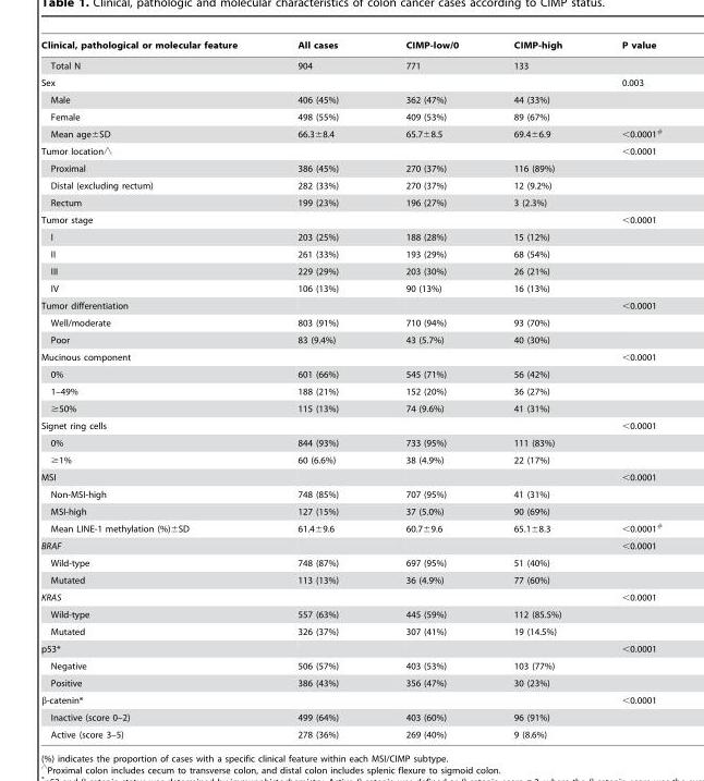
<table><thead><tr><td>Clinical, pathological or molecular feature</td><td>All cases</td><td>CIMP-low/0</td><td>CIMP-high</td><td>P value</td></tr></thead><tbody><tr><td>Total N</td><td>904</td><td>771</td><td>133</td><td></td></tr><tr><td>Sex</td><td></td><td></td><td></td><td>0.003</td></tr><tr><td>Male</td><td>406 (45%)</td><td>362 (47%)</td><td>44 (33%)</td><td></td></tr><tr><td>Female</td><td>498 (55%)</td><td>409 (53%)</td><td>89 (67%)</td><td></td></tr><tr><td>Mean age±SD</td><td>66.3±8.4</td><td>65.7±8.5</td><td>69.4±6.9</td><td>&lt;0.0001#</td></tr><tr><td>Tumor location‘</td><td></td><td></td><td></td><td>&lt;0.0001</td></tr><tr><td>Proximal</td><td>386 (45%)</td><td>270 (37%)</td><td>116 (89%)</td><td></td></tr><tr><td>Distal (excluding rectum)</td><td>282 (33%)</td><td>270 (37%)</td><td>12 (9.2%)</td><td></td></tr><tr><td>Rectum</td><td>199 (23%)</td><td>196 (27%)</td><td>3 (2.3%)</td><td></td></tr><tr><td>Tumor stage</td><td></td><td></td><td></td><td>&lt;0.0001</td></tr><tr><td>I</td><td>203 (25%)</td><td>188 (28%)</td><td>15 (12%)</td><td></td></tr><tr><td>II</td><td>261 (33%)</td><td>193 (29%)</td><td>68 (54%)</td><td></td></tr><tr><td>III</td><td>229 (29%)</td><td>203 (30%)</td><td>26 (21%)</td><td></td></tr><tr><td>IV</td><td>106 (13%)</td><td>90 (13%)</td><td>16 (13%)</td><td></td></tr><tr><td>Tumor differentiation</td><td></td><td></td><td></td><td>&lt;0.0001</td></tr><tr><td>Well/moderate</td><td>803 (91%)</td><td>710 (94%)</td><td>93 (70%)</td><td></td></tr><tr><td>Poor</td><td>83 (9.4%)</td><td>43 (5.7%)</td><td>40 (30%)</td><td></td></tr><tr><td>Mucinous component</td><td></td><td></td><td></td><td>&lt;0.0001</td></tr><tr><td>0%</td><td>601 (66%)</td><td>545 (71%)</td><td>56 (42%)</td><td></td></tr><tr><td>1–49%</td><td>188 (21%)</td><td>152 (20%)</td><td>36 (27%)</td><td></td></tr><tr><td>≥50%</td><td>115 (13%)</td><td>74 (9.6%)</td><td>41 (31%)</td><td></td></tr><tr><td>Signet ring cells</td><td></td><td></td><td></td><td>&lt;0.0001</td></tr><tr><td>0%</td><td>844 (93%)</td><td>733 (95%)</td><td>111 (83%)</td><td></td></tr><tr><td>≥1%</td><td>60 (6.6%)</td><td>38 (4.9%)</td><td>22 (17%)</td><td></td></tr><tr><td>MSI</td><td></td><td></td><td></td><td>&lt;0.0001</td></tr><tr><td>Non-MSI-high</td><td>748 (85%)</td><td>707 (95%)</td><td>41 (31%)</td><td></td></tr><tr><td>MSI-high</td><td>127 (15%)</td><td>37 (5.0%)</td><td>90 (69%)</td><td></td></tr><tr><td>Mean LINE-1 methylation (%)±SD</td><td>61.4±9.6</td><td>60.7±9.6</td><td>65.1±8.3</td><td>&lt;0.0001#</td></tr><tr><td>BRAF</td><td></td><td></td><td></td><td>&lt;0.0001</td></tr><tr><td>Wild-type</td><td>748 (87%)</td><td>697 (95%)</td><td>51 (40%)</td><td></td></tr><tr><td>Mutated</td><td>113 (13%)</td><td>36 (4.9%)</td><td>77 (60%)</td><td></td></tr><tr><td>KRAS</td><td></td><td></td><td></td><td>&lt;0.0001</td></tr><tr><td>Wild-type</td><td>557 (63%)</td><td>445 (59%)</td><td>112 (85.5%)</td><td></td></tr><tr><td>Mutated</td><td>326 (37%)</td><td>307 (41%)</td><td>19 (14.5%)</td><td></td></tr><tr><td>p53*</td><td></td><td></td><td></td><td>&lt;0.0001</td></tr><tr><td>Negative</td><td>506 (57%)</td><td>403 (53%)</td><td>103 (77%)</td><td></td></tr><tr><td>Positive</td><td>386 (43%)</td><td>356 (47%)</td><td>30 (23%)</td><td></td></tr><tr><td>β-catenin*</td><td></td><td></td><td></td><td>&lt;0.0001</td></tr><tr><td>Inactive (score 0–2)</td><td>499 (64%)</td><td>403 (60%)</td><td>96 (91%)</td><td></td></tr><tr><td>Active (score 3–5)</td><td>278 (36%)</td><td>269 (40%)</td><td>9 (8.6%)</td><td></td></tr></tbody></table>